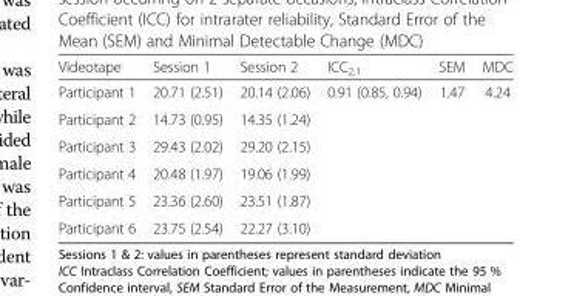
<table><thead><tr><td>Videotape</td><td>Session 1</td><td>Session 2</td><td>ICC<sub>2,1</sub></td><td>SEM</td><td>MDC</td></tr></thead><tbody><tr><td>Participant 1</td><td>20.71 (2.51)</td><td>20.14 (2.06)</td><td>0.91 (0.85, 0.94)</td><td rowspan="6">1.47</td><td rowspan="6">4.24</td></tr><tr><td>Participant 2</td><td>14.73 (0.95)</td><td>14.35 (1.24)</td><td></td></tr><tr><td>Participant 3</td><td>29.43 (2.02)</td><td>29.20 (2.15)</td><td></td></tr><tr><td>Participant 4</td><td>20.48 (1.97)</td><td>19.06 (1.99)</td><td></td></tr><tr><td>Participant 5</td><td>23.36 (2.60)</td><td>23.51 (1.87)</td><td></td></tr><tr><td>Participant 6</td><td>23.75 (2.54)</td><td>22.27 (3.10)</td><td></td></tr></tbody></table>